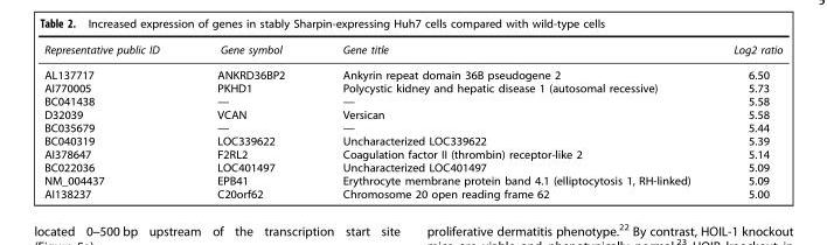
<table><thead><tr><td>Representative public ID</td><td>Gene symbol</td><td>Gene title</td><td>Log2 ratio</td></tr></thead><tbody><tr><td>AL137717</td><td>ANKRD36BP2</td><td>Ankyrin repeat domain 36B pseudogene 2</td><td>6.50</td></tr><tr><td>AI770005</td><td>PKHD1</td><td>Polycystic kidney and hepatic disease 1 (autosomal recessive)</td><td>5.73</td></tr><tr><td>BC041438</td><td>—</td><td>—</td><td>5.58</td></tr><tr><td>D32039</td><td>VCAN</td><td>Versican</td><td>5.58</td></tr><tr><td>BC035679</td><td>—</td><td>—</td><td>5.44</td></tr><tr><td>BC040319</td><td>LOC339622</td><td>Uncharacterized LOC339622</td><td>5.39</td></tr><tr><td>AI378647</td><td>F2RL2</td><td>Coagulation factor II (thrombin) receptor-like 2</td><td>5.14</td></tr><tr><td>BC022036</td><td>LOC401497</td><td>Uncharacterized LOC401497</td><td>5.09</td></tr><tr><td>NM_004437</td><td>EPB41</td><td>Erythrocyte membrane protein band 4.1 (elliptocytosis 1, RH-linked)</td><td>5.09</td></tr><tr><td>AI138237</td><td>C20orf62</td><td>Chromosome 20 open reading frame 62</td><td>5.00</td></tr></tbody></table>